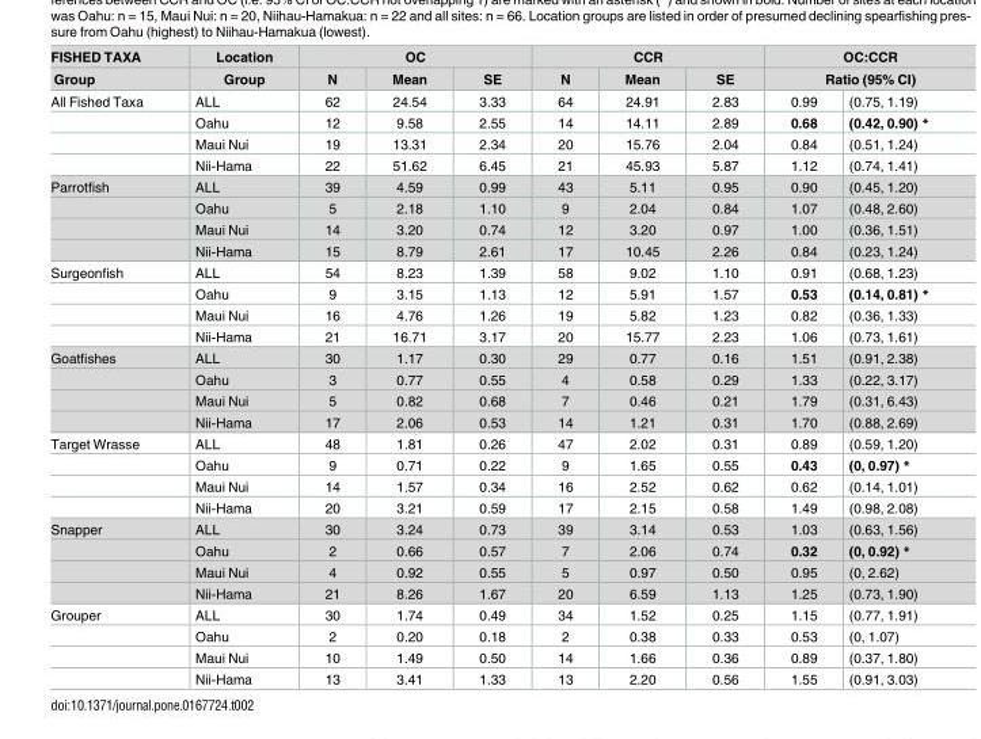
<table><thead><tr><td rowspan="3">FISHED TAXA Group All Fished Taxa</td><td rowspan="3">Location Group ALL</td><td colspan="3">OC</td><td colspan="3">CCR</td><td rowspan="2" colspan="2">OC:CCR Ratio (95% CI)</td></tr><tr><td rowspan="2">N 62</td><td rowspan="2">Mean 24.54</td><td rowspan="2">SE 3.33</td><td rowspan="2">N 64</td><td rowspan="2">Mean 24.91</td><td rowspan="2">SE 2.83</td></tr><tr><td>0.99</td><td>(0.75, 1.19)</td></tr></thead><tbody><tr><td></td><td>Oahu</td><td>12</td><td>9.58</td><td>2.55</td><td>14</td><td>14.11</td><td>2.89</td><td>0.68</td><td>(0.42, 0.90) *</td></tr><tr><td></td><td>Maui Nui</td><td>19</td><td>13.31</td><td>2.34</td><td>20</td><td>15.76</td><td>2.04</td><td>0.84</td><td>(0.51, 1.24)</td></tr><tr><td></td><td>Nii-Hama</td><td>22</td><td>51.62</td><td>6.45</td><td>21</td><td>45.93</td><td>5.87</td><td>1.12</td><td>(0.74, 1.41)</td></tr><tr><td rowspan="4">Parrotfish</td><td>ALL</td><td>39</td><td>4.59</td><td>0.99</td><td>43</td><td>5.11</td><td>0.95</td><td>0.90</td><td>(0.45, 1.20)</td></tr><tr><td>Oahu</td><td>5</td><td>2.18</td><td>1.10</td><td>9</td><td>2.04</td><td>0.84</td><td>1.07</td><td>(0.48, 2.60)</td></tr><tr><td>Maui Nui</td><td>14</td><td>3.20</td><td>0.74</td><td>12</td><td>3.20</td><td>0.97</td><td>1.00</td><td>(0.36, 1.51)</td></tr><tr><td>Nii-Hama</td><td>15</td><td>8.79</td><td>2.61</td><td>17</td><td>10.45</td><td>2.26</td><td>0.84</td><td>(0.23, 1.24)</td></tr><tr><td rowspan="4">Surgeonfish</td><td>ALL</td><td>54</td><td>8.23</td><td>1.39</td><td>58</td><td>9.02</td><td>1.10</td><td>0.91</td><td>(0.68, 1.23)</td></tr><tr><td>Oahu</td><td>9</td><td>3.15</td><td>1.13</td><td>12</td><td>5.91</td><td>1.57</td><td>0.53</td><td>(0.14, 0.81) *</td></tr><tr><td>Maui Nui</td><td>16</td><td>4.76</td><td>1.26</td><td>19</td><td>5.82</td><td>1.23</td><td>0.82</td><td>(0.36, 1.33)</td></tr><tr><td>Nii-Hama</td><td>21</td><td>16.71</td><td>3.17</td><td>20</td><td>15.77</td><td>2.23</td><td>1.06</td><td>(0.73, 1.61)</td></tr><tr><td rowspan="4">Goatfishes</td><td>ALL</td><td>30</td><td>1.17</td><td>0.30</td><td>29</td><td>0.77</td><td>0.16</td><td>1.51</td><td>(0.91, 2.38)</td></tr><tr><td>Oahu</td><td>3</td><td>0.77</td><td>0.55</td><td>4</td><td>0.58</td><td>0.29</td><td>1.33</td><td>(0.22, 3.17)</td></tr><tr><td>Maui Nui</td><td>5</td><td>0.82</td><td>0.68</td><td>7</td><td>0.46</td><td>0.21</td><td>1.79</td><td>(0.31, 6.43)</td></tr><tr><td>Nii-Hama</td><td>17</td><td>2.06</td><td>0.53</td><td>14</td><td>1.21</td><td>0.31</td><td>1.70</td><td>(0.88, 2.69)</td></tr><tr><td rowspan="4">Target Wrasse</td><td>ALL</td><td>48</td><td>1.81</td><td>0.26</td><td>47</td><td>2.02</td><td>0.31</td><td>0.89</td><td>(0.59, 1.20)</td></tr><tr><td>Oahu</td><td>9</td><td>0.71</td><td>0.22</td><td>9</td><td>1.65</td><td>0.55</td><td>0.43</td><td>(0, 0.97) *</td></tr><tr><td>Maui Nui</td><td>14</td><td>1.57</td><td>0.34</td><td>16</td><td>2.52</td><td>0.62</td><td>0.62</td><td>(0.14, 1.01)</td></tr><tr><td>Nii-Hama</td><td>20</td><td>3.21</td><td>0.59</td><td>17</td><td>2.15</td><td>0.58</td><td>1.49</td><td>(0.98, 2.08)</td></tr><tr><td rowspan="4">Snapper</td><td>ALL</td><td>30</td><td>3.24</td><td>0.73</td><td>39</td><td>3.14</td><td>0.53</td><td>1.03</td><td>(0.63, 1.56)</td></tr><tr><td>Oahu</td><td>2</td><td>0.66</td><td>0.57</td><td>7</td><td>2.06</td><td>0.74</td><td>0.32</td><td>(0, 0.92) *</td></tr><tr><td>Maui Nui</td><td>4</td><td>0.92</td><td>0.55</td><td>5</td><td>0.97</td><td>0.50</td><td>0.95</td><td>(0, 2.62)</td></tr><tr><td>Nii-Hama</td><td>21</td><td>8.26</td><td>1.67</td><td>20</td><td>6.59</td><td>1.13</td><td>1.25</td><td>(0.73, 1.90)</td></tr><tr><td rowspan="4">Grouper</td><td>ALL</td><td>30</td><td>1.74</td><td>0.49</td><td>34</td><td>1.52</td><td>0.25</td><td>1.15</td><td>(0.77, 1.91)</td></tr><tr><td>Oahu</td><td>2</td><td>0.20</td><td>0.18</td><td>2</td><td>0.38</td><td>0.33</td><td>0.53</td><td>(0, 1.07)</td></tr><tr><td>Maui Nui</td><td>10</td><td>1.49</td><td>0.50</td><td>14</td><td>1.66</td><td>0.36</td><td>0.89</td><td>(0.37, 1.80)</td></tr><tr><td>Nii-Hama</td><td>13</td><td>3.41</td><td>1.33</td><td>13</td><td>2.20</td><td>0.56</td><td>1.55</td><td>(0.91, 3.03)</td></tr></tbody></table>